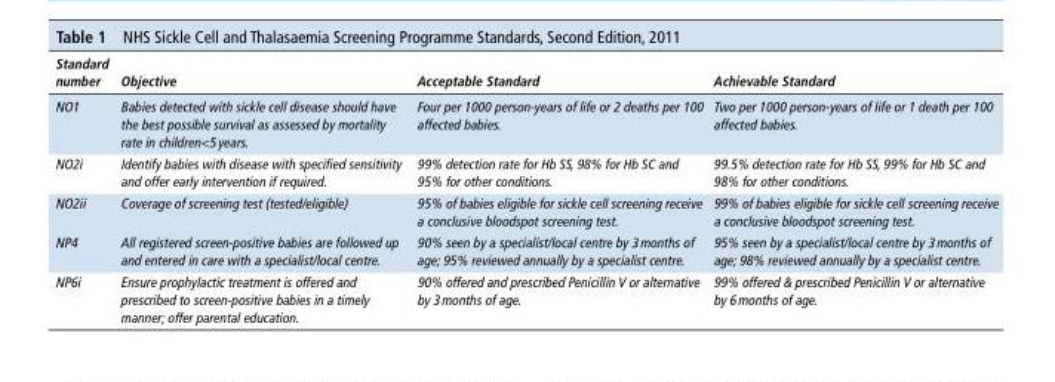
<table><thead><tr><td>Standard number</td><td>Objective</td><td>Acceptable Standard</td><td>Achievable Standard</td></tr></thead><tbody><tr><td>NO1</td><td>Babies detected with sickle cell disease should have the best possible survival as assessed by mortality rate in children&lt;5 years.</td><td>Four per 1000 person-years of life or 2 deaths per 100 affected babies.</td><td>Two per 1000 person-years of life or 1 death per 100 affected babies.</td></tr><tr><td>NO2i</td><td>Identify babies with disease with specified sensitivity and offer early intervention if required.</td><td>99% detection rate for Hb SS, 98% for Hb SC and 95% for other conditions.</td><td>99.5% detection rate for Hb SS, 99% for Hb SC and 98% for other conditions.</td></tr><tr><td>NO2ii</td><td>Coverage of screening test (tested/eligible)</td><td>95% of babies eligible for sickle cell screening receive a conclusive bloodspot screening test.</td><td>99% of babies eligible for sickle cell screening receive a conclusive bloodspot screening test.</td></tr><tr><td>NP4</td><td>All registered screen-positive babies are followed up and entered in care with a specialist/local centre.</td><td>90% seen by a specialist/local centre by 3 months of age; 95% reviewed annually by a specialist centre.</td><td>95% seen by a specialist/local centre by 3 months of age; 98% reviewed annually by a specialist centre.</td></tr><tr><td>NP6i</td><td>Ensure prophylactic treatment is offered and prescribed to screen-positive babies in a timely manner; offer parental education.</td><td>90% offered and prescribed Penicillin V or alternative by 3 months of age.</td><td>99% offered &amp; prescribed Penicillin V or alternative by 6 months of age.</td></tr></tbody></table>